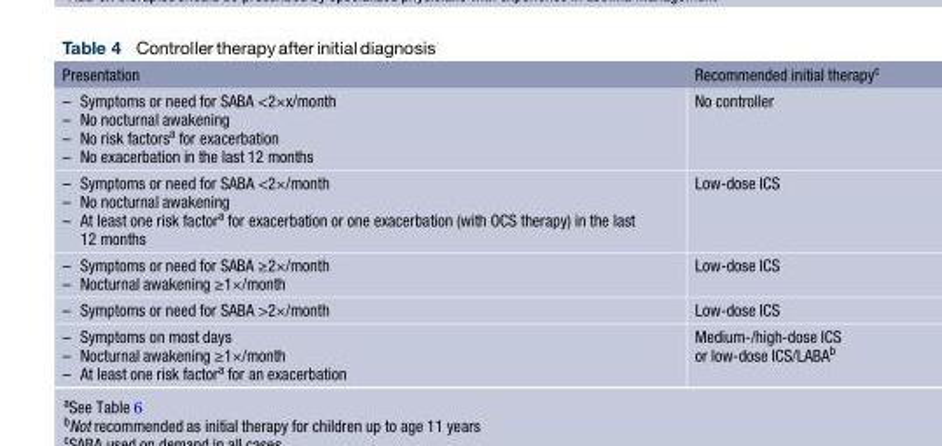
<table><thead><tr><td>Presentation</td><td>Recommended initial therapy<sup>c</sup></td></tr></thead><tbody><tr><td>– Symptoms or need for SABA &lt;2×x/month – No nocturnal awakening – No risk factors<sup>a</sup> for exacerbation – No exacerbation in the last 12 months</td><td>No controller</td></tr><tr><td>– Symptoms or need for SABA &lt;2×/month – No nocturnal awakening – At least one risk factor<sup>a</sup> for exacerbation or one exacerbation (with OCS therapy) in the last 12 months</td><td>Low-dose ICS</td></tr><tr><td>– Symptoms or need for SABA ≥2×/month – Nocturnal awakening ≥1×/month</td><td>Low-dose ICS</td></tr><tr><td>– Symptoms or need for SABA &gt;2×/month</td><td>Low-dose ICS</td></tr><tr><td>– Symptoms on most days – Nocturnal awakening ≥1×/month – At least one risk factor<sup>a</sup> for an exacerbation</td><td>Medium-/high-dose ICS or low-dose ICS/LABA<sup>b</sup></td></tr></tbody></table>